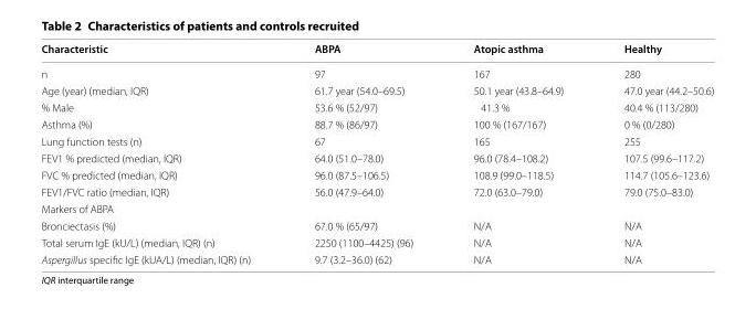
<table><thead><tr><td>Characteristic</td><td>ABPA</td><td>Atopic asthma</td><td>Healthy</td></tr></thead><tbody><tr><td>n</td><td>97</td><td>167</td><td>280</td></tr><tr><td>Age (year) (median, IQR)</td><td>61.7 year (54.0–69.5)</td><td>50.1 year (43.8–64.9)</td><td>47.0 year (44.2–50.6)</td></tr><tr><td>% Male</td><td>53.6 % (52/97)</td><td>41.3 %</td><td>40.4 % (113/280)</td></tr><tr><td>Asthma (%)</td><td>88.7 % (86/97)</td><td>100 % (167/167)</td><td>0 % (0/280)</td></tr><tr><td>Lung function tests (n)</td><td>67</td><td>165</td><td>255</td></tr><tr><td>FEV1 % predicted (median, IQR)</td><td>64.0 (51.0–78.0)</td><td>96.0 (78.4–108.2)</td><td>107.5 (99.6–117.2)</td></tr><tr><td>FVC % predicted (median, IQR)</td><td>96.0 (87.5–106.5)</td><td>108.9 (99.0–118.5)</td><td>114.7 (105.6–123.6)</td></tr><tr><td>FEV1/FVC ratio (median, IQR)</td><td>56.0 (47.9–64.0)</td><td>72.0 (63.0–79.0)</td><td>79.0 (75.0–83.0)</td></tr><tr><td colspan="4">Markers of ABPA</td></tr><tr><td>Bronciectasis (%)</td><td>67.0 % (65/97)</td><td>N/A</td><td>N/A</td></tr><tr><td>Total serum IgE (kU/L) (median, IQR) (n)</td><td>2250 (1100–4425) (96)</td><td>N/A</td><td>N/A</td></tr><tr><td>Aspergillus specific IgE (kUA/L) (median, IQR) (n)</td><td>9.7 (3.2–36.0) (62)</td><td>N/A</td><td>N/A</td></tr></tbody></table>